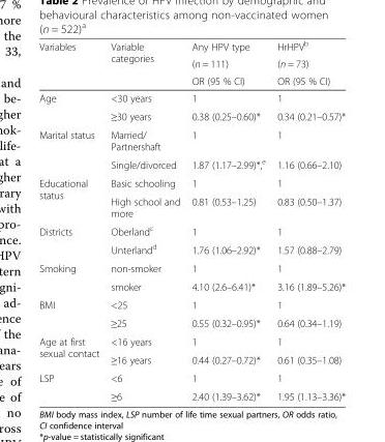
<table><thead><tr><td rowspan="3">Variables</td><td rowspan="3">Variable categories</td><td rowspan="3">Any HPV type (n = 111) OR (95 % CI)</td><td rowspan="3">HrHPV<sup>b</sup> (n = 73) OR (95 % CI)</td></tr><tr></tr><tr></tr></thead><tbody><tr><td rowspan="2">Age</td><td>&lt;30 years</td><td>1</td><td>1</td></tr><tr><td>≥30 years</td><td>0.38 (0.25–0.60)*</td><td>0.34 (0.21–0.57)*</td></tr><tr><td rowspan="2">Marital status</td><td>Married/ Partnershaft</td><td>1</td><td>1</td></tr><tr><td>Single/divorced</td><td>1.87 (1.17–2.99)*,<sup>e</sup></td><td>1.16 (0.66–2.10)</td></tr><tr><td rowspan="2">Educational status</td><td>Basic schooling</td><td>1</td><td>1</td></tr><tr><td>High school and more</td><td>0.81 (0.53–1.25)</td><td>0.83 (0.50–1.37)</td></tr><tr><td rowspan="2">Districts</td><td>Oberland<sup>c</sup></td><td>1</td><td>1</td></tr><tr><td>Unterland<sup>d</sup></td><td>1.76 (1.06–2.92)*</td><td>1.57 (0.88–2.79)</td></tr><tr><td rowspan="2">Smoking</td><td>non-smoker</td><td>1</td><td>1</td></tr><tr><td>smoker</td><td>4.10 (2.6–6.41)*</td><td>3.16 (1.89–5.26)*</td></tr><tr><td rowspan="2">BMI</td><td>&lt;25</td><td>1</td><td>1</td></tr><tr><td>≥25</td><td>0.55 (0.32–0.95)*</td><td>0.64 (0.34–1.19)</td></tr><tr><td rowspan="2">Age at first sexual contact</td><td>&lt;16 years</td><td>1</td><td>1</td></tr><tr><td>≥16 years</td><td>0.44 (0.27–0.72)*</td><td>0.61 (0.35–1.08)</td></tr><tr><td rowspan="2">LSP</td><td>&lt;6</td><td>1</td><td>1</td></tr><tr><td>≥6</td><td>2.40 (1.39–3.62)*</td><td>1.95 (1.13–3.36)*</td></tr></tbody></table>